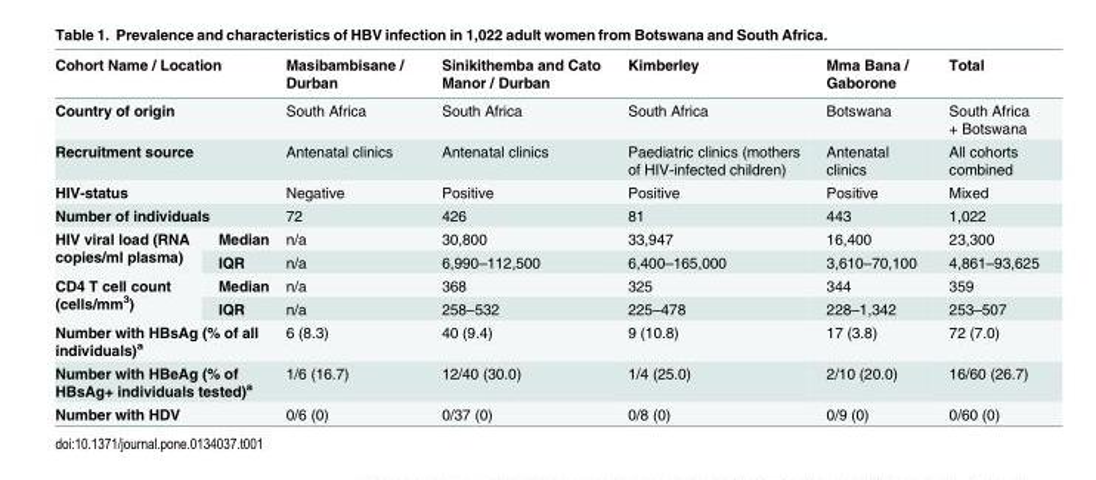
<table><thead><tr><td colspan="2">Cohort Name / Location</td><td>Masibambisane / Durban</td><td>Sinikithemba and Cato Manor / Durban</td><td>Kimberley</td><td>Mma Bana / Gaborone</td><td>Total</td></tr></thead><tbody><tr><td colspan="2">Country of origin</td><td>South Africa</td><td>South Africa</td><td>South Africa</td><td>Botswana</td><td>South Africa + Botswana</td></tr><tr><td colspan="2">Recruitment source</td><td>Antenatal clinics</td><td>Antenatal clinics</td><td>Paediatric clinics (mothers of HIV-infected children)</td><td>Antenatal clinics</td><td>All cohorts combined</td></tr><tr><td colspan="2">HIV-status</td><td>Negative</td><td>Positive</td><td>Positive</td><td>Positive</td><td>Mixed</td></tr><tr><td colspan="2">Number of individuals</td><td>72</td><td>426</td><td>81</td><td>443</td><td>1,022</td></tr><tr><td rowspan="2">HIV viral load (RNA copies/ml plasma)</td><td>Median</td><td>n/a</td><td>30,800</td><td>33,947</td><td>16,400</td><td>23,300</td></tr><tr><td>IQR</td><td>n/a</td><td>6,990–112,500</td><td>6,400–165,000</td><td>3,610–70,100</td><td>4,861–93,625</td></tr><tr><td rowspan="2">CD4 T cell count (cells/mm<sup>3</sup>)</td><td>Median</td><td>n/a</td><td>368</td><td>325</td><td>344</td><td>359</td></tr><tr><td>IQR</td><td>n/a</td><td>258–532</td><td>225–478</td><td>228–1,342</td><td>253–507</td></tr><tr><td colspan="2">Number with HBsAg (% of all individuals)<sup>a</sup></td><td>6 (8.3)</td><td>40 (9.4)</td><td>9 (10.8)</td><td>17 (3.8)</td><td>72 (7.0)</td></tr><tr><td colspan="2">Number with HBeAg (% of HBsAg+ individuals tested)<sup>a</sup></td><td>1/6 (16.7)</td><td>12/40 (30.0)</td><td>1/4 (25.0)</td><td>2/10 (20.0)</td><td>16/60 (26.7)</td></tr><tr><td>Number with HDV</td><td></td><td>0/6 (0)</td><td>0/37 (0)</td><td>0/8 (0)</td><td>0/9 (0)</td><td>0/60 (0)</td></tr></tbody></table>